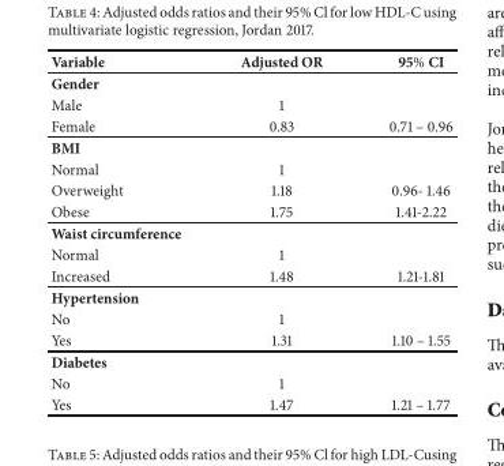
<table><thead><tr><td>Variable</td><td>Adjusted OR</td><td>95% CI</td></tr></thead><tbody><tr><td colspan="3">Gender</td></tr><tr><td>Male</td><td>1</td><td></td></tr><tr><td>Female</td><td>0.83</td><td>0.71 – 0.96</td></tr><tr><td colspan="3">BMI</td></tr><tr><td>Normal</td><td>1</td><td></td></tr><tr><td>Overweight</td><td>1.18</td><td>0.96- 1.46</td></tr><tr><td>Obese</td><td>1.75</td><td>1.41-2.22</td></tr><tr><td colspan="3">Waist circumference</td></tr><tr><td>Normal</td><td>1</td><td></td></tr><tr><td>Increased</td><td>1.48</td><td>1.21-1.81</td></tr><tr><td colspan="3">Hypertension</td></tr><tr><td>No</td><td>1</td><td></td></tr><tr><td>Yes</td><td>1.31</td><td>1.10 – 1.55</td></tr><tr><td colspan="3">Diabetes</td></tr><tr><td>No</td><td>1</td><td></td></tr><tr><td>Yes</td><td>1.47</td><td>1.21 – 1.77</td></tr></tbody></table>